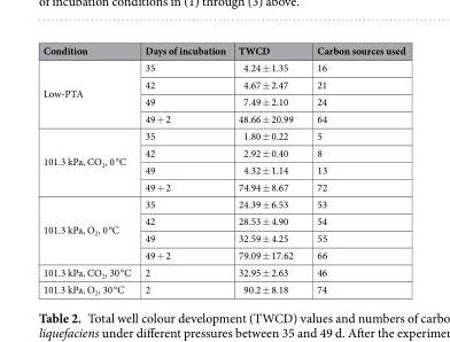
<table><thead><tr><td>Condition</td><td>Days of incubation</td><td>TWCD</td><td>Carbon sources used</td></tr></thead><tbody><tr><td rowspan="4">Low-PTA</td><td>35</td><td>4.24 ± 1.35</td><td>16</td></tr><tr><td>42</td><td>4.67 ± 2.47</td><td>21</td></tr><tr><td>49</td><td>7.49 ± 2.10</td><td>24</td></tr><tr><td>49 + 2</td><td>48.66 ± 20.99</td><td>64</td></tr><tr><td rowspan="4">101.3 kPa, CO<sub>2</sub>, 0 °C</td><td>35</td><td>1.80 ± 0.22</td><td>5</td></tr><tr><td>42</td><td>2.92 ± 0.40</td><td>8</td></tr><tr><td>49</td><td>4.32 ± 1.14</td><td>13</td></tr><tr><td>49 + 2</td><td>74.94 ± 8.67</td><td>72</td></tr><tr><td rowspan="4">101.3 kPa, O<sub>2</sub>, 0 °C</td><td>35</td><td>24.39 ± 6.53</td><td>53</td></tr><tr><td>42</td><td>28.53 ± 4.90</td><td>54</td></tr><tr><td>49</td><td>32.59 ± 4.25</td><td>55</td></tr><tr><td>49 + 2</td><td>79.09 ± 17.62</td><td>66</td></tr><tr><td>101.3 kPa, CO<sub>2</sub>, 30 °C</td><td>2</td><td>32.95 ± 2.63</td><td>46</td></tr><tr><td>101.3 kPa, O<sub>2</sub>, 30 °C</td><td>2</td><td>90.2 ± 8.18</td><td>74</td></tr></tbody></table>